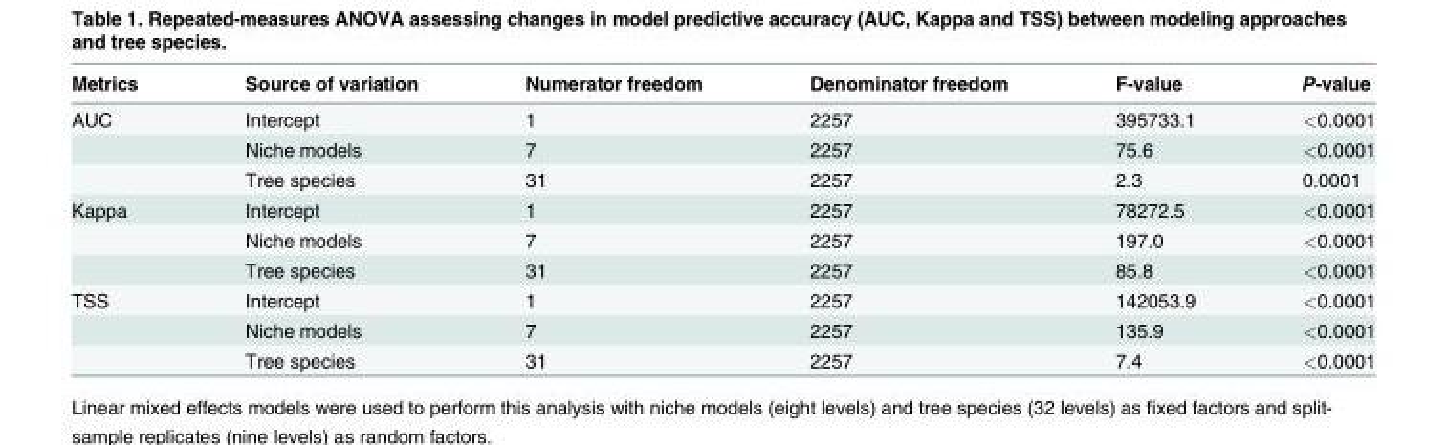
<table><thead><tr><td>Metrics</td><td>Source of variation</td><td>Numerator freedom</td><td>Denominator freedom</td><td>F-value</td><td>P-value</td></tr></thead><tbody><tr><td rowspan="3">AUC</td><td>Intercept</td><td>1</td><td>2257</td><td>395733.1</td><td>&lt;0.0001</td></tr><tr><td>Niche models</td><td>7</td><td>2257</td><td>75.6</td><td>&lt;0.0001</td></tr><tr><td>Tree species</td><td>31</td><td>2257</td><td>2.3</td><td>0.0001</td></tr><tr><td rowspan="3">Kappa</td><td>Intercept</td><td>1</td><td>2257</td><td>78272.5</td><td>&lt;0.0001</td></tr><tr><td>Niche models</td><td>7</td><td>2257</td><td>197.0</td><td>&lt;0.0001</td></tr><tr><td>Tree species</td><td>31</td><td>2257</td><td>85.8</td><td>&lt;0.0001</td></tr><tr><td rowspan="3">TSS</td><td>Intercept</td><td>1</td><td>2257</td><td>142053.9</td><td>&lt;0.0001</td></tr><tr><td>Niche models</td><td>7</td><td>2257</td><td>135.9</td><td>&lt;0.0001</td></tr><tr><td>Tree species</td><td>31</td><td>2257</td><td>7.4</td><td>&lt;0.0001</td></tr></tbody></table>